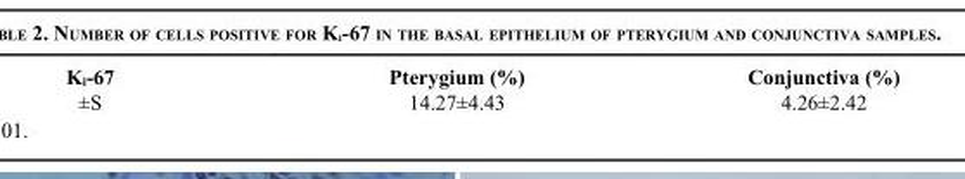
<table><thead><tr><td>K<sub>i</sub>-67</td><td>Pterygium (%)</td><td>Conjunctiva (%)</td></tr></thead><tbody><tr><td>±S</td><td>14.27±4.43</td><td>4.26±2.42</td></tr></tbody></table>